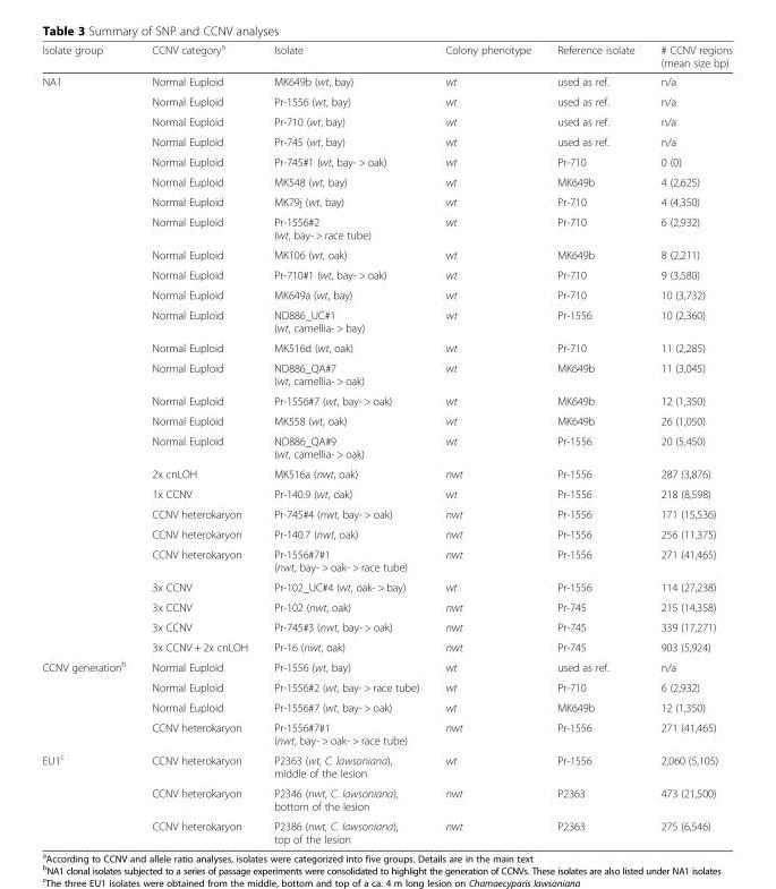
<table><thead><tr><td>Isolate group</td><td>CCNV category<sup>a</sup></td><td>Isolate</td><td>Colony phenotype</td><td>Reference isolate</td><td># CCNV regions (mean size bp)</td></tr></thead><tbody><tr><td rowspan="26">NA1</td><td>Normal Euploid</td><td>MK649b (wt, bay)</td><td>wt</td><td>used as ref.</td><td>n/a</td></tr><tr><td>Normal Euploid</td><td>Pr-1556 (wt, bay)</td><td>wt</td><td>used as ref.</td><td>n/a</td></tr><tr><td>Normal Euploid</td><td>Pr-710 (wt, bay)</td><td>wt</td><td>used as ref.</td><td>n/a</td></tr><tr><td>Normal Euploid</td><td>Pr-745 (wt, bay)</td><td>wt</td><td>used as ref.</td><td>n/a</td></tr><tr><td>Normal Euploid</td><td>Pr-745#1 (wt, bay- &gt; oak)</td><td>wt</td><td>Pr-710</td><td>0 (0)</td></tr><tr><td>Normal Euploid</td><td>MK548 (wt, bay)</td><td>wt</td><td>MK649b</td><td>4 (2,625)</td></tr><tr><td>Normal Euploid</td><td>MK79j (wt, bay)</td><td>wt</td><td>Pr-710</td><td>4 (4,350)</td></tr><tr><td>Normal Euploid</td><td>Pr-1556#2 (wt, bay- &gt; race tube)</td><td>wt</td><td>Pr-710</td><td>6 (2,932)</td></tr><tr><td>Normal Euploid</td><td>MK106 (wt, oak)</td><td>wt</td><td>MK649b</td><td>8 (2,211)</td></tr><tr><td>Normal Euploid</td><td>Pr-710#1 (wt, bay- &gt; oak)</td><td>wt</td><td>Pr-710</td><td>9 (3,580)</td></tr><tr><td>Normal Euploid</td><td>MK649a (wt, bay)</td><td>wt</td><td>Pr-710</td><td>10 (3,732)</td></tr><tr><td>Normal Euploid</td><td>ND886_UC#1 (wt, camellia- &gt; bay)</td><td>wt</td><td>Pr-1556</td><td>10 (2,360)</td></tr><tr><td>Normal Euploid</td><td>MK516d (wt, oak)</td><td>wt</td><td>Pr-710</td><td>11 (2,285)</td></tr><tr><td>Normal Euploid</td><td>ND886_QA#7 (wt, camellia- &gt; oak)</td><td>wt</td><td>MK649b</td><td>11 (3,045)</td></tr><tr><td>Normal Euploid</td><td>Pr-1556#7 (wt, bay- &gt; oak)</td><td>wt</td><td>MK649b</td><td>12 (1,350)</td></tr><tr><td>Normal Euploid</td><td>MK558 (wt, oak)</td><td>wt</td><td>MK649b</td><td>26 (1,050)</td></tr><tr><td>Normal Euploid</td><td>ND886_QA#9 (wt, camellia- &gt; oak)</td><td>wt</td><td>Pr-1556</td><td>20 (5,450)</td></tr><tr><td>2x cnLOH</td><td>MK516a (nwt, oak)</td><td>nwt</td><td>Pr-1556</td><td>287 (3,876)</td></tr><tr><td>1x CCNV</td><td>Pr-140.9 (wt, oak)</td><td>wt</td><td>Pr-1556</td><td>218 (8,598)</td></tr><tr><td>CCNV heterokaryon</td><td>Pr-745#4 (nwt, bay- &gt; oak)</td><td>nwt</td><td>Pr-1556</td><td>171 (15,536)</td></tr><tr><td>CCNV heterokaryon</td><td>Pr-140.7 (nwt, oak)</td><td>nwt</td><td>Pr-1556</td><td>256 (11,375)</td></tr><tr><td>CCNV heterokaryon</td><td>Pr-1556#7#1 (nwt, bay- &gt; oak- &gt; race tube)</td><td>nwt</td><td>Pr-1556</td><td>271 (41,465)</td></tr><tr><td>3x CCNV</td><td>Pr-102_UC#4 (wt, oak- &gt; bay)</td><td>wt</td><td>Pr-1556</td><td>114 (27,238)</td></tr><tr><td>3x CCNV</td><td>Pr-102 (nwt, oak)</td><td>nwt</td><td>Pr-745</td><td>215 (14,358)</td></tr><tr><td>3x CCNV</td><td>Pr-745#3 (nwt, bay- &gt; oak)</td><td>nwt</td><td>Pr-745</td><td>339 (17,271)</td></tr><tr><td>3x CCNV + 2x cnLOH</td><td>Pr-16 (nwt, oak)</td><td>nwt</td><td>Pr-745</td><td>903 (5,924)</td></tr><tr><td rowspan="4">CCNV generation<sup>b</sup></td><td>Normal Euploid</td><td>Pr-1556 (wt, bay)</td><td>wt</td><td>used as ref.</td><td>n/a</td></tr><tr><td>Normal Euploid</td><td>Pr-1556#2 (wt, bay- &gt; race tube)</td><td>wt</td><td>Pr-710</td><td>6 (2,932)</td></tr><tr><td>Normal Euploid</td><td>Pr-1556#7 (wt, bay- &gt; oak)</td><td>wt</td><td>MK649b</td><td>12 (1,350)</td></tr><tr><td>CCNV heterokaryon</td><td>Pr-1556#7#1 (nwt, bay- &gt; oak- &gt; race tube)</td><td>nwt</td><td>Pr-1556</td><td>271 (41,465)</td></tr><tr><td rowspan="3">EU1<sup>c</sup></td><td>CCNV heterokaryon</td><td>P2363 (wt, C. lawsoniana), middle of the lesion</td><td>wt</td><td>Pr-1556</td><td>2,060 (5,105)</td></tr><tr><td>CCNV heterokaryon</td><td>P2346 (nwt, C. lawsoniana), bottom of the lesion</td><td>nwt</td><td>P2363</td><td>473 (21,500)</td></tr><tr><td>CCNV heterokaryon</td><td>P2386 (nwt, C. lawsoniana), top of the lesion</td><td>nwt</td><td>P2363</td><td>275 (6,546)</td></tr></tbody></table>